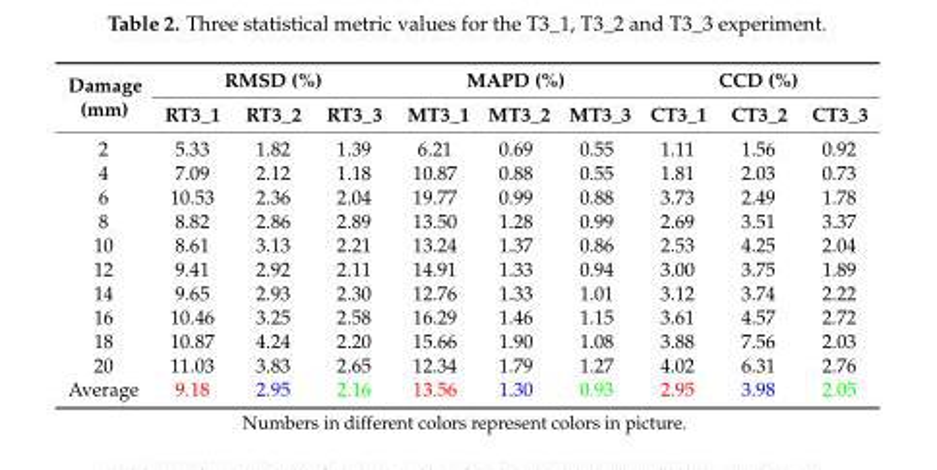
<table><thead><tr><td rowspan="2">Damage (mm)</td><td colspan="3">RMSD (%)</td><td colspan="3">MAPD (%)</td><td colspan="3">CCD (%)</td></tr><tr><td>RT3_1</td><td>RT3_2</td><td>RT3_3</td><td>MT3_1</td><td>MT3_2</td><td>MT3_3</td><td>CT3_1</td><td>CT3_2</td><td>CT3_3</td></tr></thead><tbody><tr><td>2</td><td>5.33</td><td>1.82</td><td>1.39</td><td>6.21</td><td>0.69</td><td>0.55</td><td>1.11</td><td>1.56</td><td>0.92</td></tr><tr><td>4</td><td>7.09</td><td>2.12</td><td>1.18</td><td>10.87</td><td>0.88</td><td>0.55</td><td>1.81</td><td>2.03</td><td>0.73</td></tr><tr><td>6</td><td>10.53</td><td>2.36</td><td>2.04</td><td>19.77</td><td>0.99</td><td>0.88</td><td>3.73</td><td>2.49</td><td>1.78</td></tr><tr><td>8</td><td>8.82</td><td>2.86</td><td>2.89</td><td>13.50</td><td>1.28</td><td>0.99</td><td>2.69</td><td>3.51</td><td>3.37</td></tr><tr><td>10</td><td>8.61</td><td>3.13</td><td>2.21</td><td>13.24</td><td>1.37</td><td>0.86</td><td>2.53</td><td>4.25</td><td>2.04</td></tr><tr><td>12</td><td>9.41</td><td>2.92</td><td>2.11</td><td>14.91</td><td>1.33</td><td>0.94</td><td>3.00</td><td>3.75</td><td>1.89</td></tr><tr><td>14</td><td>9.65</td><td>2.93</td><td>2.30</td><td>12.76</td><td>1.33</td><td>1.01</td><td>3.12</td><td>3.74</td><td>2.22</td></tr><tr><td>16</td><td>10.46</td><td>3.25</td><td>2.58</td><td>16.29</td><td>1.46</td><td>1.15</td><td>3.61</td><td>4.57</td><td>2.72</td></tr><tr><td>18</td><td>10.87</td><td>4.24</td><td>2.20</td><td>15.66</td><td>1.90</td><td>1.08</td><td>3.88</td><td>7.56</td><td>2.03</td></tr><tr><td>20</td><td>11.03</td><td>3.83</td><td>2.65</td><td>12.34</td><td>1.79</td><td>1.27</td><td>4.02</td><td>6.31</td><td>2.76</td></tr><tr><td>Average</td><td>9.18</td><td>2.95</td><td>2.16</td><td>13.56</td><td>1.30</td><td>0.93</td><td>2.95</td><td>3.98</td><td>2.05</td></tr></tbody></table>